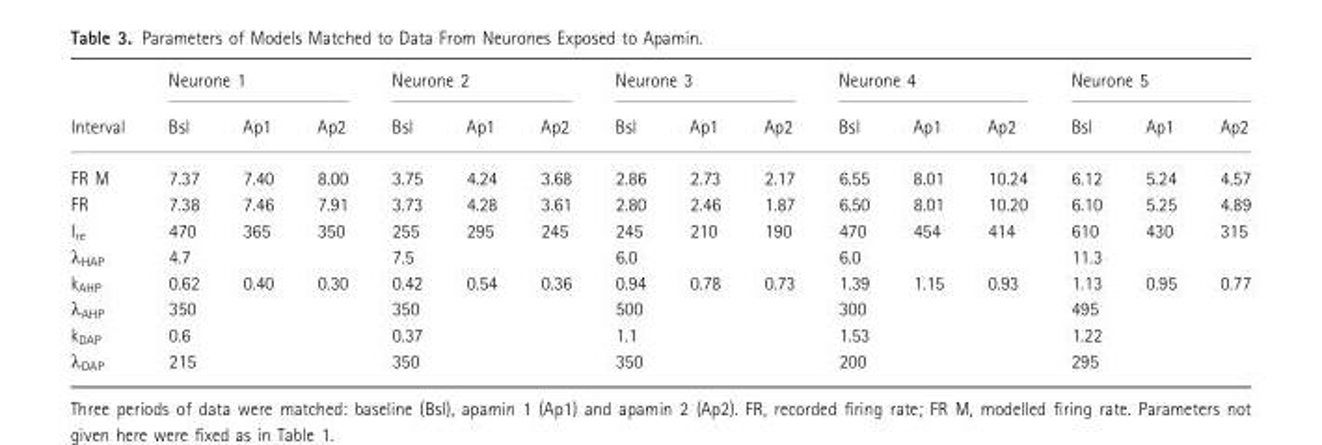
<table><thead><tr><td rowspan="2">Interval</td><td colspan="3">Neurone 1</td><td colspan="3">Neurone 2</td><td colspan="3">Neurone 3</td><td colspan="3">Neurone 4</td><td colspan="3">Neurone 5</td></tr><tr><td>Bsl</td><td>Ap1</td><td>Ap2</td><td>Bsl</td><td>Ap1</td><td>Ap2</td><td>Bsl</td><td>Ap1</td><td>Ap2</td><td>Bsl</td><td>Ap1</td><td>Ap2</td><td>Bsl</td><td>Ap1</td><td>Ap2</td></tr></thead><tbody><tr><td>FR M</td><td>7.37</td><td>7.40</td><td>8.00</td><td>3.75</td><td>4.24</td><td>3.68</td><td>2.86</td><td>2.73</td><td>2.17</td><td>6.55</td><td>8.01</td><td>10.24</td><td>6.12</td><td>5.24</td><td>4.57</td></tr><tr><td>FR</td><td>7.38</td><td>7.46</td><td>7.91</td><td>3.73</td><td>4.28</td><td>3.61</td><td>2.80</td><td>2.46</td><td>1.87</td><td>6.50</td><td>8.01</td><td>10.20</td><td>6.10</td><td>5.25</td><td>4.89</td></tr><tr><td>I<sub>re</sub></td><td>470</td><td>365</td><td>350</td><td>255</td><td>295</td><td>245</td><td>245</td><td>210</td><td>190</td><td>470</td><td>454</td><td>414</td><td>610</td><td>430</td><td>315</td></tr><tr><td>λ<sub>HAP</sub></td><td>4.7</td><td></td><td></td><td>7.5</td><td></td><td></td><td>6.0</td><td></td><td></td><td>6.0</td><td></td><td></td><td>11.3</td><td></td><td></td></tr><tr><td>k<sub>AHP</sub></td><td>0.62</td><td>0.40</td><td>0.30</td><td>0.42</td><td>0.54</td><td>0.36</td><td>0.94</td><td>0.78</td><td>0.73</td><td>1.39</td><td>1.15</td><td>0.93</td><td>1.13</td><td>0.95</td><td>0.77</td></tr><tr><td>λ<sub>AHP</sub></td><td>350</td><td></td><td></td><td>350</td><td></td><td></td><td>500</td><td></td><td></td><td>300</td><td></td><td></td><td>495</td><td></td><td></td></tr><tr><td>k<sub>DAP</sub></td><td>0.6</td><td></td><td></td><td>0.37</td><td></td><td></td><td>1.1</td><td></td><td></td><td>1.53</td><td></td><td></td><td>1.22</td><td></td><td></td></tr><tr><td>λ<sub>DAP</sub></td><td>215</td><td></td><td></td><td>350</td><td></td><td></td><td>350</td><td></td><td></td><td>200</td><td></td><td></td><td>295</td><td></td><td></td></tr></tbody></table>